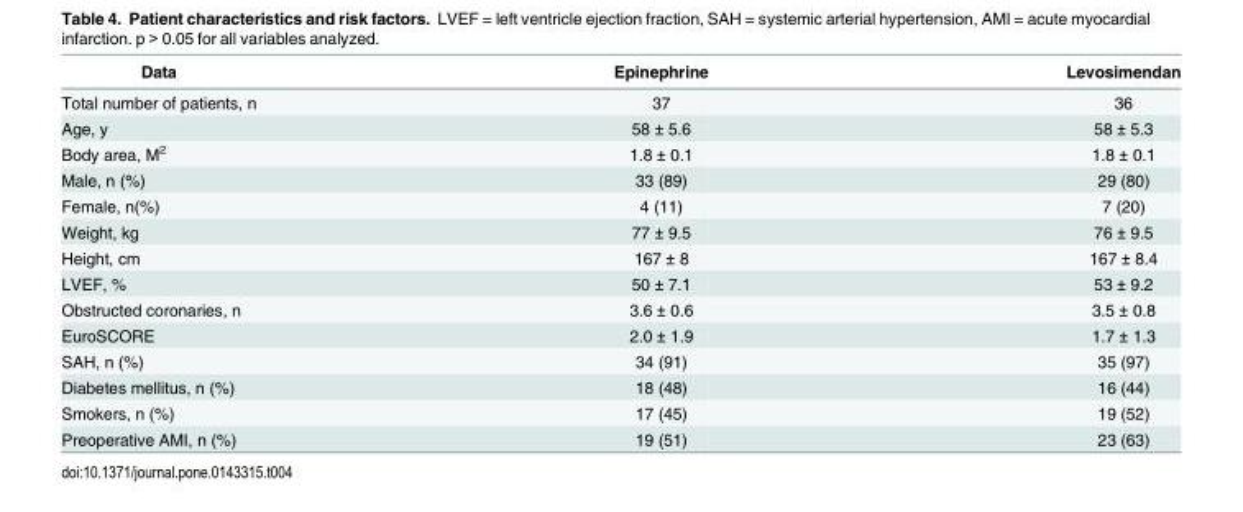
<table><thead><tr><td>Data</td><td>Epinephrine</td><td>Levosimendan</td></tr></thead><tbody><tr><td>Total number of patients, n</td><td>37</td><td>36</td></tr><tr><td>Age, y</td><td>58 ± 5.6</td><td>58 ± 5.3</td></tr><tr><td>Body area, M<sup>2</sup></td><td>1.8 ± 0.1</td><td>1.8 ± 0.1</td></tr><tr><td>Male, n (%)</td><td>33 (89)</td><td>29 (80)</td></tr><tr><td>Female, n(%)</td><td>4 (11)</td><td>7 (20)</td></tr><tr><td>Weight, kg</td><td>77 ± 9.5</td><td>76 ± 9.5</td></tr><tr><td>Height, cm</td><td>167 ± 8</td><td>167 ± 8.4</td></tr><tr><td>LVEF, %</td><td>50 ± 7.1</td><td>53 ± 9.2</td></tr><tr><td>Obstructed coronaries, n</td><td>3.6 ± 0.6</td><td>3.5 ± 0.8</td></tr><tr><td>EuroSCORE</td><td>2.0 ± 1.9</td><td>1.7 ± 1.3</td></tr><tr><td>SAH, n (%)</td><td>34 (91)</td><td>35 (97)</td></tr><tr><td>Diabetes mellitus, n (%)</td><td>18 (48)</td><td>16 (44)</td></tr><tr><td>Smokers, n (%)</td><td>17 (45)</td><td>19 (52)</td></tr><tr><td>Preoperative AMI, n (%)</td><td>19 (51)</td><td>23 (63)</td></tr></tbody></table>